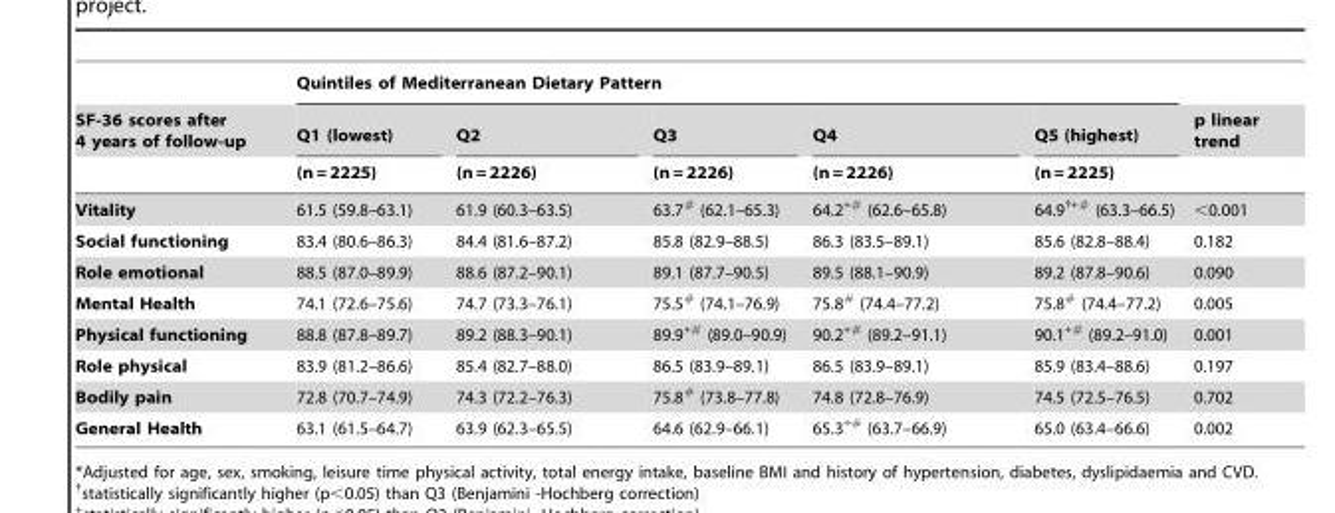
<table><thead><tr><td rowspan="3">SF-36 scores after 4 years of follow-up</td><td colspan="5">Quintiles of Mediterranean Dietary Pattern</td><td rowspan="3">p linear trend</td></tr><tr><td rowspan="2">Q1 (lowest) (n = 2225)</td><td rowspan="2">Q2 (n = 2226)</td><td rowspan="2">Q3 (n = 2226)</td><td rowspan="2">Q4 (n = 2226)</td><td rowspan="2">Q5 (highest) (n = 2225)</td></tr><tr></tr></thead><tbody><tr><td>Vitality</td><td>61.5 (59.8–63.1)</td><td>61.9 (60.3–63.5)</td><td>63.7# (62.1–65.3)</td><td>64.2<sup>+#</sup> (62.6–65.8)</td><td>64.9†<sup>+#</sup> (63.3–66.5)</td><td>&lt;0.001</td></tr><tr><td>Social functioning</td><td>83.4 (80.6–86.3)</td><td>84.4 (81.6–87.2)</td><td>85.8 (82.9–88.5)</td><td>86.3 (83.5–89.1)</td><td>85.6 (82.8–88.4)</td><td>0.182</td></tr><tr><td>Role emotional</td><td>88.5 (87.0–89.9)</td><td>88.6 (87.2–90.1)</td><td>89.1 (87.7–90.5)</td><td>89.5 (88.1–90.9)</td><td>89.2 (87.8–90.6)</td><td>0.090</td></tr><tr><td>Mental Health</td><td>74.1 (72.6–75.6)</td><td>74.7 (73.3–76.1)</td><td>75.5# (74.1–76.9)</td><td>75.8# (74.4–77.2)</td><td>75.8# (74.4–77.2)</td><td>0.005</td></tr><tr><td>Physical functioning</td><td>88.8 (87.8–89.7)</td><td>89.2 (88.3–90.1)</td><td>89.9<sup>+#</sup> (89.0–90.9)</td><td>90.2<sup>+#</sup> (89.2–91.1)</td><td>90.1<sup>+#</sup> (89.2–91.0)</td><td>0.001</td></tr><tr><td>Role physical</td><td>83.9 (81.2–86.6)</td><td>85.4 (82.7–88.0)</td><td>86.5 (83.9–89.1)</td><td>86.5 (83.9–89.1)</td><td>85.9 (83.4–88.6)</td><td>0.197</td></tr><tr><td>Bodily pain</td><td>72.8 (70.7–74.9)</td><td>74.3 (72.2–76.3)</td><td>75.8# (73.8–77.8)</td><td>74.8 (72.8–76.9)</td><td>74.5 (72.5–76.5)</td><td>0.702</td></tr><tr><td>General Health</td><td>63.1 (61.5–64.7)</td><td>63.9 (62.3–65.5)</td><td>64.6 (62.9–66.1)</td><td>65.3<sup>+#</sup> (63.7–66.9)</td><td>65.0 (63.4–66.6)</td><td>0.002</td></tr></tbody></table>